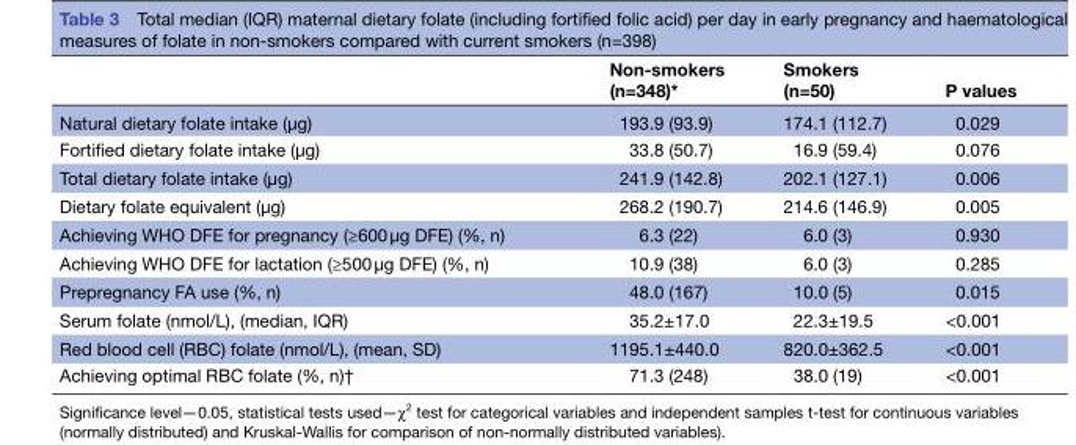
<table><thead><tr><td></td><td>Non-smokers (n=348)*</td><td>Smokers (n=50)</td><td>P values</td></tr></thead><tbody><tr><td>Natural dietary folate intake (µg)</td><td>193.9 (93.9)</td><td>174.1 (112.7)</td><td>0.029</td></tr><tr><td>Fortified dietary folate intake (µg)</td><td>33.8 (50.7)</td><td>16.9 (59.4)</td><td>0.076</td></tr><tr><td>Total dietary folate intake (µg)</td><td>241.9 (142.8)</td><td>202.1 (127.1)</td><td>0.006</td></tr><tr><td>Dietary folate equivalent (µg)</td><td>268.2 (190.7)</td><td>214.6 (146.9)</td><td>0.005</td></tr><tr><td>Achieving WHO DFE for pregnancy (≥600 µg DFE) (%, n)</td><td>6.3 (22)</td><td>6.0 (3)</td><td>0.930</td></tr><tr><td>Achieving WHO DFE for lactation (≥500 µg DFE) (%, n)</td><td>10.9 (38)</td><td>6.0 (3)</td><td>0.285</td></tr><tr><td>Prepregnancy FA use (%, n)</td><td>48.0 (167)</td><td>10.0 (5)</td><td>0.015</td></tr><tr><td>Serum folate (nmol/L), (median, IQR)</td><td>35.2±17.0</td><td>22.3±19.5</td><td>&lt;0.001</td></tr><tr><td>Red blood cell (RBC) folate (nmol/L), (mean, SD)</td><td>1195.1±440.0</td><td>820.0±362.5</td><td>&lt;0.001</td></tr><tr><td>Achieving optimal RBC folate (%, n)†</td><td>71.3 (248)</td><td>38.0 (19)</td><td>&lt;0.001</td></tr></tbody></table>